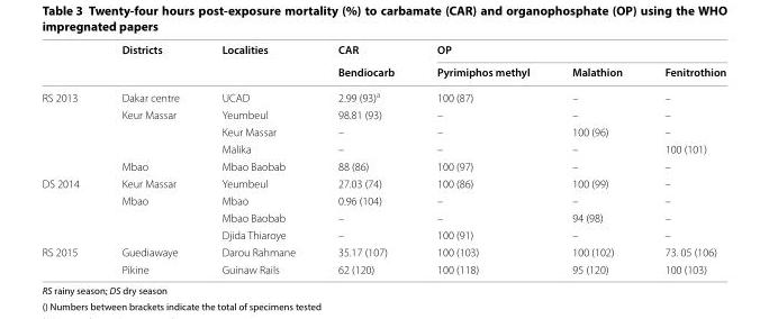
<table><thead><tr><td rowspan="2"></td><td rowspan="2">Districts</td><td rowspan="2">Localities</td><td rowspan="2">CAR Bendiocarb</td><td colspan="3">OP</td></tr><tr><td>Pyrimiphos methyl</td><td>Malathion</td><td>Fenitrothion</td></tr></thead><tbody><tr><td rowspan="5">RS 2013</td><td>Dakar centre</td><td>UCAD</td><td>2.99 (93)<sup>a</sup></td><td>100 (87)</td><td>–</td><td>–</td></tr><tr><td rowspan="3">Keur Massar</td><td>Yeumbeul</td><td>98.81 (93)</td><td>–</td><td>–</td><td>–</td></tr><tr><td>Keur Massar</td><td>–</td><td>–</td><td>100 (96)</td><td>–</td></tr><tr><td>Malika</td><td>–</td><td>–</td><td>–</td><td>100 (101)</td></tr><tr><td>Mbao</td><td>Mbao Baobab</td><td>88 (86)</td><td>100 (97)</td><td>–</td><td>–</td></tr><tr><td rowspan="4">DS 2014</td><td>Keur Massar</td><td>Yeumbeul</td><td>27.03 (74)</td><td>100 (86)</td><td>100 (99)</td><td>–</td></tr><tr><td rowspan="3">Mbao</td><td>Mbao</td><td>0.96 (104)</td><td>–</td><td>–</td><td>–</td></tr><tr><td>Mbao Baobab</td><td>–</td><td>–</td><td>94 (98)</td><td>–</td></tr><tr><td>Djida Thiaroye</td><td>–</td><td>100 (91)</td><td>–</td><td>–</td></tr><tr><td rowspan="2">RS 2015</td><td>Guediawaye</td><td>Darou Rahmane</td><td>35.17 (107)</td><td>100 (103)</td><td>100 (102)</td><td>73. 05 (106)</td></tr><tr><td>Pikine</td><td>Guinaw Rails</td><td>62 (120)</td><td>100 (118)</td><td>95 (120)</td><td>100 (103)</td></tr></tbody></table>